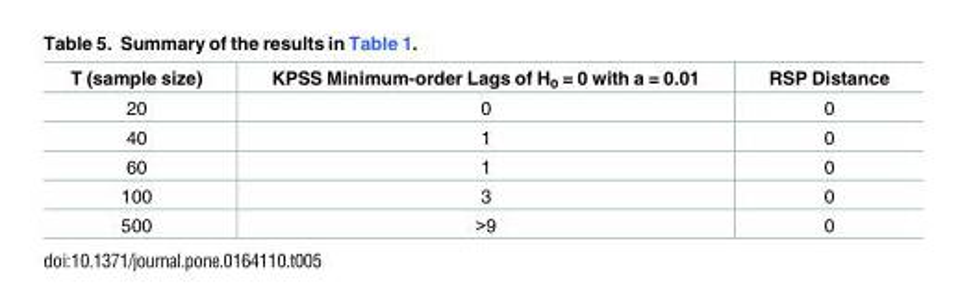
<table><thead><tr><td>T (sample size)</td><td>KPSS Minimum-order Lags of H<sub>0</sub> = 0 with a = 0.01</td><td>RSP Distance</td></tr></thead><tbody><tr><td>20</td><td>0</td><td>0</td></tr><tr><td>40</td><td>1</td><td>0</td></tr><tr><td>60</td><td>1</td><td>0</td></tr><tr><td>100</td><td>3</td><td>0</td></tr><tr><td>500</td><td>&gt;9</td><td>0</td></tr></tbody></table>